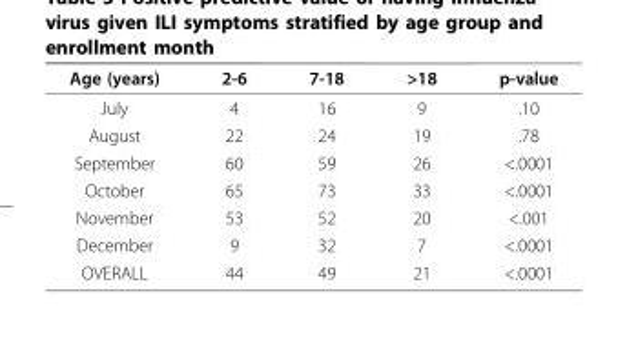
<table><thead><tr><td>Age (years)</td><td>2-6</td><td>7-18</td><td>&gt;18</td><td>p-value</td></tr></thead><tbody><tr><td>July</td><td>4</td><td>16</td><td>9</td><td>.10</td></tr><tr><td>August</td><td>22</td><td>24</td><td>19</td><td>.78</td></tr><tr><td>September</td><td>60</td><td>59</td><td>26</td><td>&lt;.0001</td></tr><tr><td>October</td><td>65</td><td>73</td><td>33</td><td>&lt;.0001</td></tr><tr><td>November</td><td>53</td><td>52</td><td>20</td><td>&lt;.001</td></tr><tr><td>December</td><td>9</td><td>32</td><td>7</td><td>&lt;.0001</td></tr><tr><td>OVERALL</td><td>44</td><td>49</td><td>21</td><td>&lt;.0001</td></tr></tbody></table>